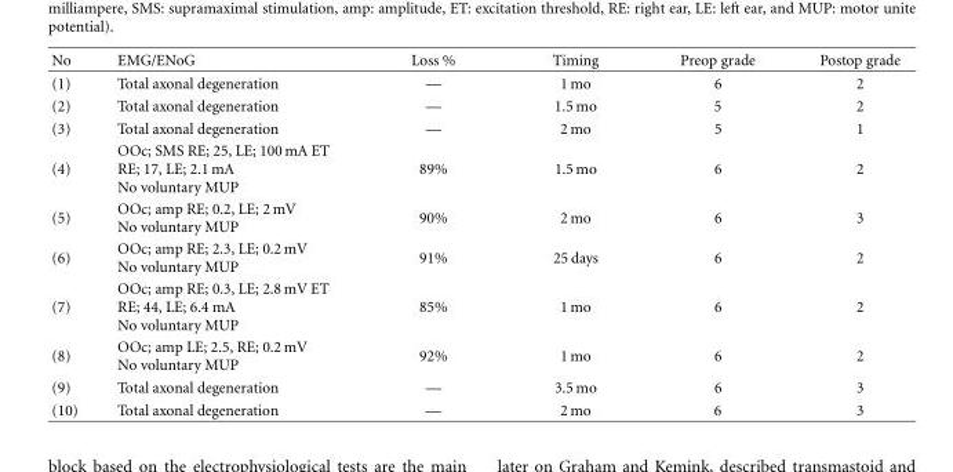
<table><thead><tr><td>No</td><td>EMG/ENoG</td><td>Loss %</td><td>Timing</td><td>Preop grade</td><td>Postop grade</td></tr></thead><tbody><tr><td>(1)</td><td>Total axonal degeneration</td><td>—</td><td>1 mo</td><td>6</td><td>2</td></tr><tr><td>(2)</td><td>Total axonal degeneration</td><td>—</td><td>1.5 mo</td><td>5</td><td>2</td></tr><tr><td>(3)</td><td>Total axonal degeneration</td><td>—</td><td>2 mo</td><td>5</td><td>1</td></tr><tr><td>(4)</td><td>OOc; SMS RE; 25, LE; 100 mA ET RE; 17, LE; 2.1 mA No voluntary MUP</td><td>89%</td><td>1.5 mo</td><td>6</td><td>2</td></tr><tr><td>(5)</td><td>OOc; amp RE; 0.2, LE; 2 mV No voluntary MUP</td><td>90%</td><td>2 mo</td><td>6</td><td>3</td></tr><tr><td>(6)</td><td>OOc; amp RE; 2.3, LE; 0.2 mV No voluntary MUP</td><td>91%</td><td>25 days</td><td>6</td><td>2</td></tr><tr><td>(7)</td><td>OOc; amp RE; 0.3, LE; 2.8 mV ET RE; 44, LE; 6.4 mA No voluntary MUP</td><td>85%</td><td>1 mo</td><td>6</td><td>2</td></tr><tr><td>(8)</td><td>OOc; amp LE; 2.5, RE; 0.2 mV No voluntary MUP</td><td>92%</td><td>1 mo</td><td>6</td><td>2</td></tr><tr><td>(9)</td><td>Total axonal degeneration</td><td>—</td><td>3.5 mo</td><td>6</td><td>3</td></tr><tr><td>(10)</td><td>Total axonal degeneration</td><td>—</td><td>2 mo</td><td>6</td><td>3</td></tr></tbody></table>